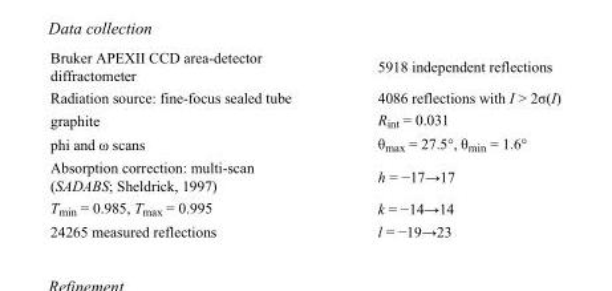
<table><tbody><tr><td>Bruker APEXII CCD area-detector diffractometer</td><td>5918 independent reflections</td></tr><tr><td>Radiation source: fine-focus sealed tube</td><td>4086 reflections with I &gt; 2σ(I)</td></tr><tr><td>graphite</td><td>R<sub>int</sub> = 0.031</td></tr><tr><td>phi and ω scans</td><td>θ<sub>max</sub> = 27.5°, θ<sub>min</sub> = 1.6°</td></tr><tr><td>Absorption correction: multi-scan (SADABS; Sheldrick, 1997)</td><td>h = −17→17</td></tr><tr><td>T<sub>min</sub> = 0.985, T<sub>max</sub> = 0.995</td><td>k = −14→14</td></tr><tr><td>24265 measured reflections</td><td>l = −19→23</td></tr></tbody></table>